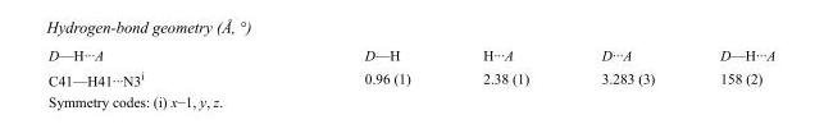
<table><tbody><tr><td>D—H···A</td><td>D—H</td><td>H···A</td><td>D···A</td><td>D—H···A</td></tr><tr><td>C41—H41···N3<sup>i</sup></td><td>0.96 (1)</td><td>2.38 (1)</td><td>3.283 (3)</td><td>158 (2)</td></tr></tbody></table>